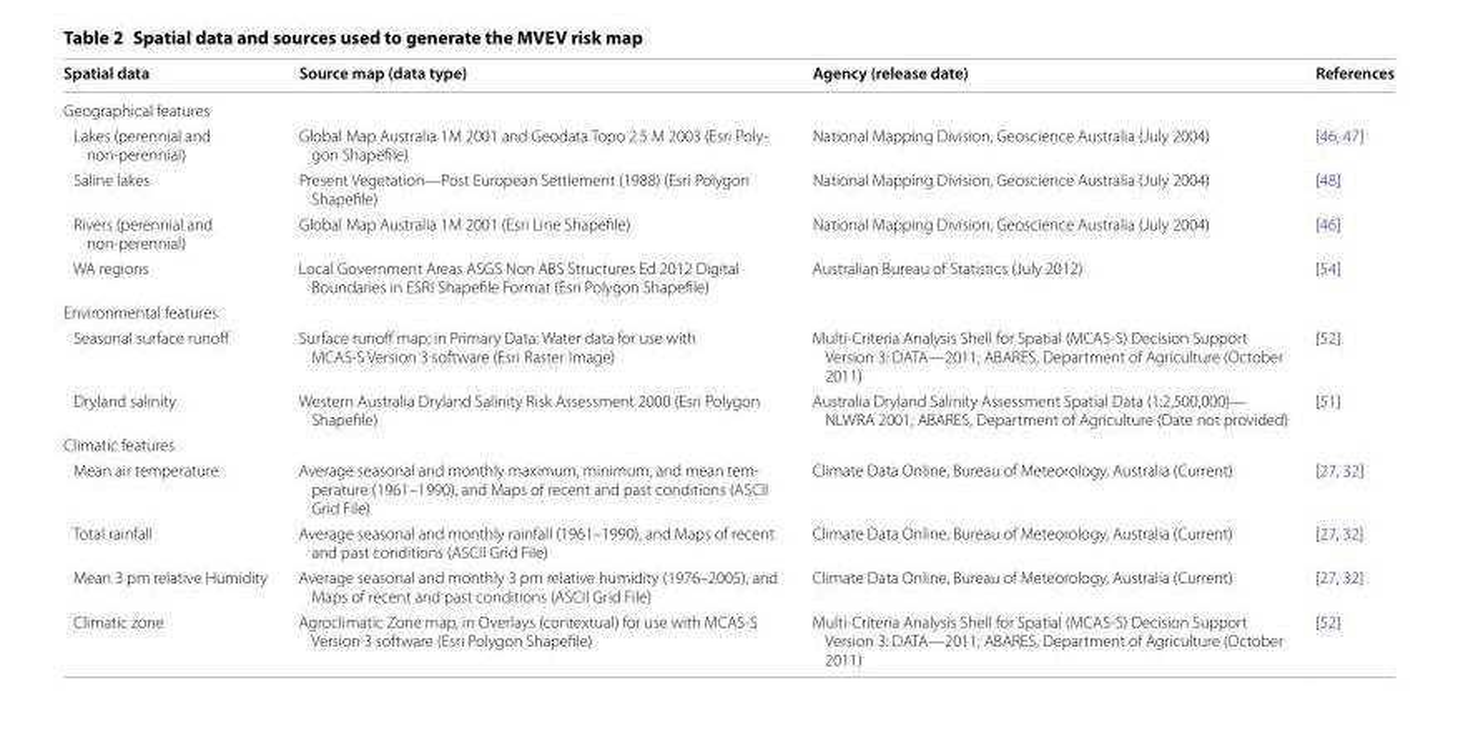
<table><thead><tr><td>Spatial data</td><td>Source map (data type)</td><td>Agency (release date)</td><td>References</td></tr></thead><tbody><tr><td colspan="4">Geographical features</td></tr><tr><td>Lakes (perennial and non-perennial)</td><td>Global Map Australia 1M 2001 and Geodata Topo 2.5 M 2003 (Esri Poly- gon Shapefile)</td><td>National Mapping Division, Geoscience Australia (July 2004)</td><td>[46, 47]</td></tr><tr><td>Saline lakes</td><td>Present Vegetation—Post European Settlement (1988) (Esri Polygon Shapefile)</td><td>National Mapping Division, Geoscience Australia (July 2004)</td><td>[48]</td></tr><tr><td>Rivers (perennial and non-perennial)</td><td>Global Map Australia 1M 2001 (Esri Line Shapefile)</td><td>National Mapping Division, Geoscience Australia (July 2004)</td><td>[46]</td></tr><tr><td>WA regions</td><td>Local Government Areas ASGS Non ABS Structures Ed 2012 Digital Boundaries in ESRI Shapefile Format (Esri Polygon Shapefile)</td><td>Australian Bureau of Statistics (July 2012)</td><td>[54]</td></tr><tr><td colspan="4">Environmental features</td></tr><tr><td>Seasonal surface runoff</td><td>Surface runoff map; in Primary Data: Water data for use with MCAS-S Version 3 software (Esri Raster Image)</td><td>Multi-Criteria Analysis Shell for Spatial (MCAS-S) Decision Support Version 3: DATA—2011; ABARES, Department of Agriculture (October 2011)</td><td>[52]</td></tr><tr><td>Dryland salinity</td><td>Western Australia Dryland Salinity Risk Assessment 2000 (Esri Polygon Shapefile)</td><td>Australia Dryland Salinity Assessment Spatial Data (1:2,500,000)— NLWRA 2001; ABARES, Department of Agriculture (Date not provided)</td><td>[51]</td></tr><tr><td colspan="4">Climatic features</td></tr><tr><td>Mean air temperature</td><td>Average seasonal and monthly maximum, minimum, and mean tem- perature (1961–1990), and Maps of recent and past conditions (ASCII Grid File)</td><td>Climate Data Online, Bureau of Meteorology, Australia (Current)</td><td>[27, 32]</td></tr><tr><td>Total rainfall</td><td>Average seasonal and monthly rainfall (1961–1990), and Maps of recent and past conditions (ASCII Grid File)</td><td>Climate Data Online, Bureau of Meteorology, Australia (Current)</td><td>[27, 32]</td></tr><tr><td>Mean 3 pm relative Humidity</td><td>Average seasonal and monthly 3 pm relative humidity (1976–2005), and Maps of recent and past conditions (ASCII Grid File)</td><td>Climate Data Online, Bureau of Meteorology, Australia (Current)</td><td>[27, 32]</td></tr><tr><td>Climatic zone</td><td>Agroclimatic Zone map, in Overlays (contextual) for use with MCAS-S Version 3 software (Esri Polygon Shapefile)</td><td>Multi-Criteria Analysis Shell for Spatial (MCAS-S) Decision Support Version 3: DATA—2011; ABARES, Department of Agriculture (October 2011)</td><td>[52]</td></tr></tbody></table>